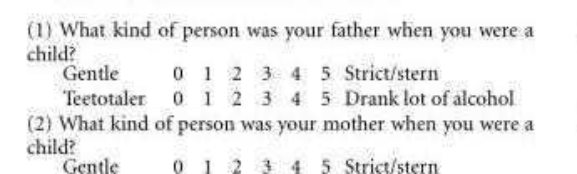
<table><tbody><tr><td>Gentle</td><td>0</td><td>1</td><td>2</td><td>3</td><td>4</td><td>5</td><td>Strict/stern</td></tr><tr><td>Teetotaler</td><td>0</td><td>1</td><td>2</td><td>3</td><td>4</td><td>5</td><td>Drank lot of alcohol</td></tr></tbody></table>